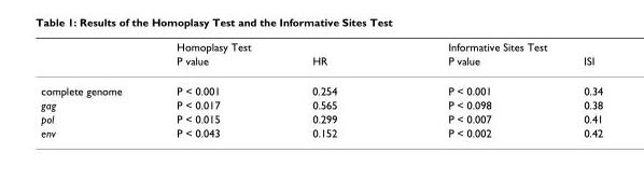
<table><thead><tr><td rowspan="2"></td><td rowspan="2">Homoplasy Test P value</td><td rowspan="2">HR</td><td rowspan="2">Informative Sites Test P value</td><td rowspan="2">ISI</td></tr><tr></tr></thead><tbody><tr><td>complete genome</td><td>P &lt; 0.001</td><td>0.254</td><td>P &lt; 0.001</td><td>0.34</td></tr><tr><td>gag</td><td>P &lt; 0.017</td><td>0.565</td><td>P &lt; 0.098</td><td>0.38</td></tr><tr><td>pol</td><td>P &lt; 0.015</td><td>0.299</td><td>P &lt; 0.007</td><td>0.41</td></tr><tr><td>env</td><td>P &lt; 0.043</td><td>0.152</td><td>P &lt; 0.002</td><td>0.42</td></tr></tbody></table>